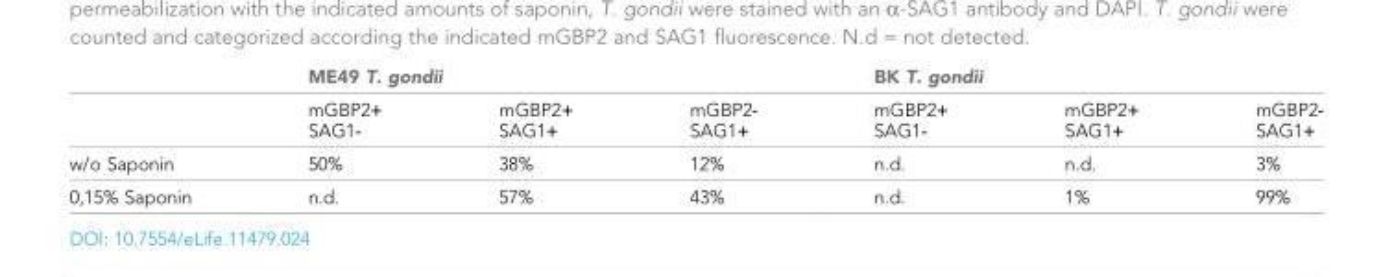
<table><thead><tr><td rowspan="2"></td><td colspan="3">ME49 T. gondii</td><td colspan="3">BK T. gondii</td></tr><tr><td>mGBP2+ SAG1-</td><td>mGBP2+ SAG1+</td><td>mGBP2- SAG1+</td><td>mGBP2+ SAG1-</td><td>mGBP2+ SAG1+</td><td>mGBP2- SAG1+</td></tr></thead><tbody><tr><td>w/o Saponin</td><td>50%</td><td>38%</td><td>12%</td><td>n.d.</td><td>n.d.</td><td>3%</td></tr><tr><td>0,15% Saponin</td><td>n.d.</td><td>57%</td><td>43%</td><td>n.d.</td><td>1%</td><td>99%</td></tr></tbody></table>